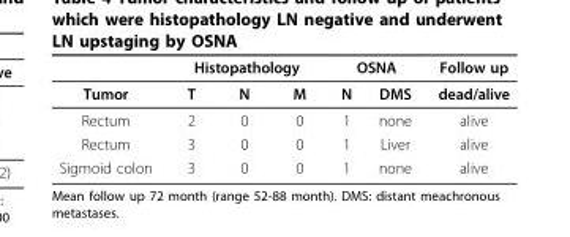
<table><thead><tr><td rowspan="2">Tumor</td><td colspan="3">Histopathology</td><td colspan="2">OSNA</td><td rowspan="2">Follow up dead/alive</td></tr><tr><td>T</td><td>N</td><td>M</td><td>N</td><td>DMS</td></tr></thead><tbody><tr><td>Rectum</td><td>2</td><td>0</td><td>0</td><td>1</td><td>none</td><td>alive</td></tr><tr><td>Rectum</td><td>3</td><td>0</td><td>0</td><td>1</td><td>Liver</td><td>alive</td></tr><tr><td>Sigmoid colon</td><td>3</td><td>0</td><td>0</td><td>1</td><td>none</td><td>alive</td></tr></tbody></table>